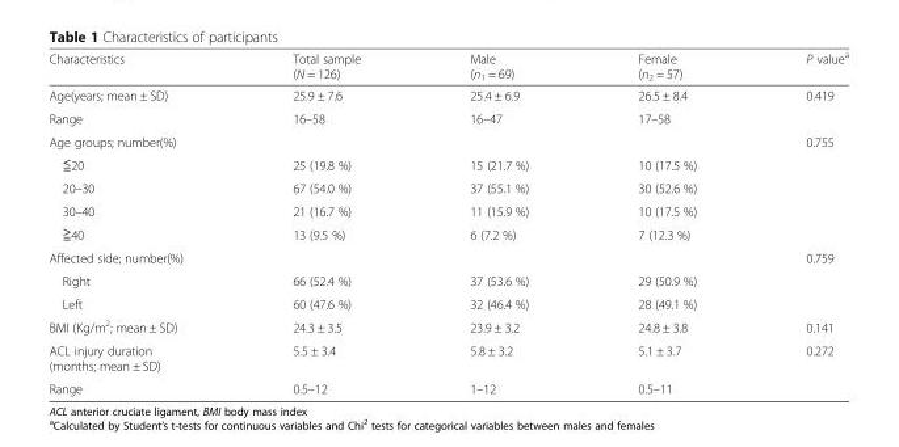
<table><thead><tr><td>Characteristics</td><td>Total sample (N = 126)</td><td>Male (n<sub>1</sub> = 69)</td><td>Female (n<sub>2</sub> = 57)</td><td>P value<sup>a</sup></td></tr></thead><tbody><tr><td>Age(years; mean ± SD)</td><td>25.9 ± 7.6</td><td>25.4 ± 6.9</td><td>26.5 ± 8.4</td><td>0.419</td></tr><tr><td>Range</td><td>16–58</td><td>16–47</td><td>17–58</td><td></td></tr><tr><td>Age groups; number(%)</td><td></td><td></td><td></td><td>0.755</td></tr><tr><td>≦20</td><td>25 (19.8 %)</td><td>15 (21.7 %)</td><td>10 (17.5 %)</td><td></td></tr><tr><td>20–30</td><td>67 (54.0 %)</td><td>37 (55.1 %)</td><td>30 (52.6 %)</td><td></td></tr><tr><td>30–40</td><td>21 (16.7 %)</td><td>11 (15.9 %)</td><td>10 (17.5 %)</td><td></td></tr><tr><td>≧40</td><td>13 (9.5 %)</td><td>6 (7.2 %)</td><td>7 (12.3 %)</td><td></td></tr><tr><td>Affected side; number(%)</td><td></td><td></td><td></td><td>0.759</td></tr><tr><td>Right</td><td>66 (52.4 %)</td><td>37 (53.6 %)</td><td>29 (50.9 %)</td><td></td></tr><tr><td>Left</td><td>60 (47.6 %)</td><td>32 (46.4 %)</td><td>28 (49.1 %)</td><td></td></tr><tr><td>BMI (Kg/m<sup>2</sup>; mean ± SD)</td><td>24.3 ± 3.5</td><td>23.9 ± 3.2</td><td>24.8 ± 3.8</td><td>0.141</td></tr><tr><td>ACL injury duration (months; mean ± SD)</td><td>5.5 ± 3.4</td><td>5.8 ± 3.2</td><td>5.1 ± 3.7</td><td>0.272</td></tr><tr><td>Range</td><td>0.5–12</td><td>1–12</td><td>0.5–11</td><td></td></tr></tbody></table>